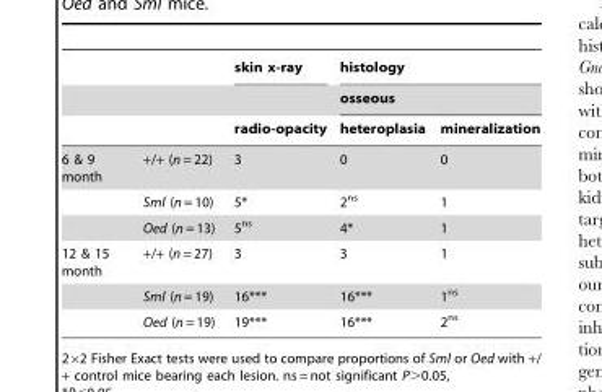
<table><thead><tr><td rowspan="3"></td><td rowspan="3"></td><td rowspan="3">skin x-ray radio-opacity</td><td rowspan="2" colspan="2">histology osseous</td></tr><tr></tr><tr><td>heteroplasia</td><td>mineralization</td></tr></thead><tbody><tr><td rowspan="3">6 &amp; 9 month</td><td>+/+ (n = 22)</td><td>3</td><td>0</td><td>0</td></tr><tr><td>Sml (n = 10)</td><td>5*</td><td>2<sup>ns</sup></td><td>1</td></tr><tr><td>Oed (n = 13)</td><td>5<sup>ns</sup></td><td>4*</td><td>1</td></tr><tr><td rowspan="3">12 &amp; 15 month</td><td>+/+ (n = 27)</td><td>3</td><td>3</td><td>1</td></tr><tr><td>Sml (n = 19)</td><td>16***</td><td>16***</td><td>1<sup>ns</sup></td></tr><tr><td>Oed (n = 19)</td><td>19***</td><td>16***</td><td>2<sup>ns</sup></td></tr></tbody></table>